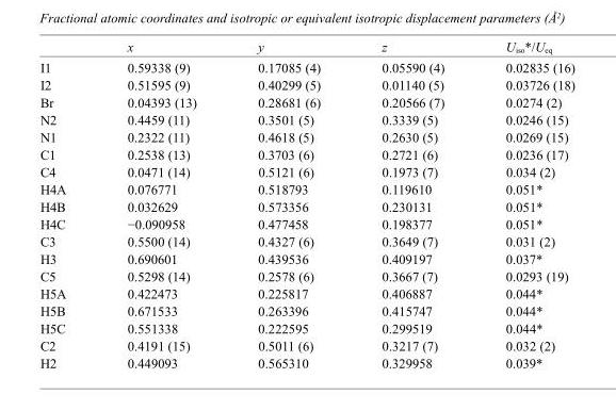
<table><thead><tr><td></td><td>x</td><td>y</td><td>z</td><td>U<sub>iso</sub>*/U<sub>eq</sub></td></tr></thead><tbody><tr><td>I1</td><td>0.59338 (9)</td><td>0.17085 (4)</td><td>0.05590 (4)</td><td>0.02835 (16)</td></tr><tr><td>I2</td><td>0.51595 (9)</td><td>0.40299 (5)</td><td>0.01140 (5)</td><td>0.03726 (18)</td></tr><tr><td>Br</td><td>0.04393 (13)</td><td>0.28681 (6)</td><td>0.20566 (7)</td><td>0.0274 (2)</td></tr><tr><td>N2</td><td>0.4459 (11)</td><td>0.3501 (5)</td><td>0.3339 (5)</td><td>0.0246 (15)</td></tr><tr><td>N1</td><td>0.2322 (11)</td><td>0.4618 (5)</td><td>0.2630 (5)</td><td>0.0269 (15)</td></tr><tr><td>C1</td><td>0.2538 (13)</td><td>0.3703 (6)</td><td>0.2721 (6)</td><td>0.0236 (17)</td></tr><tr><td>C4</td><td>0.0471 (14)</td><td>0.5121 (6)</td><td>0.1973 (7)</td><td>0.034 (2)</td></tr><tr><td>H4A</td><td>0.076771</td><td>0.518793</td><td>0.119610</td><td>0.051*</td></tr><tr><td>H4B</td><td>0.032629</td><td>0.573356</td><td>0.230131</td><td>0.051*</td></tr><tr><td>H4C</td><td>−0.090958</td><td>0.477458</td><td>0.198377</td><td>0.051*</td></tr><tr><td>C3</td><td>0.5500 (14)</td><td>0.4327 (6)</td><td>0.3649 (7)</td><td>0.031 (2)</td></tr><tr><td>H3</td><td>0.690601</td><td>0.439536</td><td>0.409197</td><td>0.037*</td></tr><tr><td>C5</td><td>0.5298 (14)</td><td>0.2578 (6)</td><td>0.3667 (7)</td><td>0.0293 (19)</td></tr><tr><td>H5A</td><td>0.422473</td><td>0.225817</td><td>0.406887</td><td>0.044*</td></tr><tr><td>H5B</td><td>0.671533</td><td>0.263396</td><td>0.415747</td><td>0.044*</td></tr><tr><td>H5C</td><td>0.551338</td><td>0.222595</td><td>0.299519</td><td>0.044*</td></tr><tr><td>C2</td><td>0.4191 (15)</td><td>0.5011 (6)</td><td>0.3217 (7)</td><td>0.032 (2)</td></tr><tr><td>H2</td><td>0.449093</td><td>0.565310</td><td>0.329958</td><td>0.039*</td></tr></tbody></table>